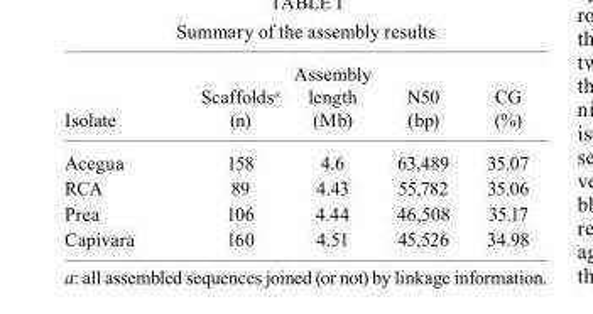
<table><thead><tr><td>Isolate</td><td>Scaffolds<sup>a</sup> (n)</td><td>Assembly length (Mb)</td><td>N50 (bp)</td><td>CG (%)</td></tr></thead><tbody><tr><td>Acegua</td><td>158</td><td>4.6</td><td>63,489</td><td>35.07</td></tr><tr><td>RCA</td><td>89</td><td>4.43</td><td>55,782</td><td>35.06</td></tr><tr><td>Prea</td><td>106</td><td>4.44</td><td>46,508</td><td>35.17</td></tr><tr><td>Capivara</td><td>160</td><td>4.51</td><td>45,526</td><td>34.98</td></tr></tbody></table>